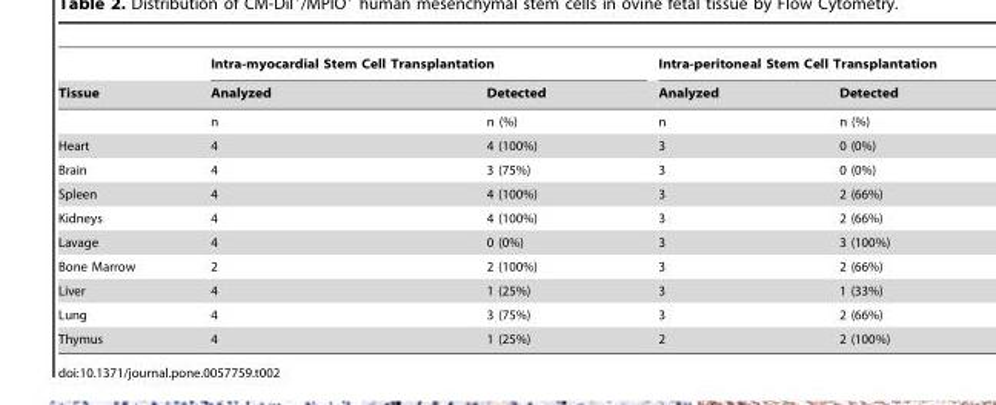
<table><thead><tr><td rowspan="2">Tissue</td><td colspan="2">Intra-myocardial Stem Cell Transplantation</td><td colspan="2">Intra-peritoneal Stem Cell Transplantation</td></tr><tr><td>Analyzed</td><td>Detected</td><td>Analyzed</td><td>Detected</td></tr></thead><tbody><tr><td></td><td>n</td><td>n (%)</td><td>n</td><td>n (%)</td></tr><tr><td>Heart</td><td>4</td><td>4 (100%)</td><td>3</td><td>0 (0%)</td></tr><tr><td>Brain</td><td>4</td><td>3 (75%)</td><td>3</td><td>0 (0%)</td></tr><tr><td>Spleen</td><td>4</td><td>4 (100%)</td><td>3</td><td>2 (66%)</td></tr><tr><td>Kidneys</td><td>4</td><td>4 (100%)</td><td>3</td><td>2 (66%)</td></tr><tr><td>Lavage</td><td>4</td><td>0 (0%)</td><td>3</td><td>3 (100%)</td></tr><tr><td>Bone Marrow</td><td>2</td><td>2 (100%)</td><td>3</td><td>2 (66%)</td></tr><tr><td>Liver</td><td>4</td><td>1 (25%)</td><td>3</td><td>1 (33%)</td></tr><tr><td>Lung</td><td>4</td><td>3 (75%)</td><td>3</td><td>2 (66%)</td></tr><tr><td>Thymus</td><td>4</td><td>1 (25%)</td><td>2</td><td>2 (100%)</td></tr></tbody></table>